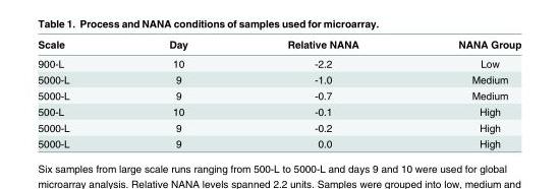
<table><thead><tr><td>Scale</td><td>Day</td><td>Relative NANA</td><td>NANA Group</td></tr></thead><tbody><tr><td>900-L</td><td>10</td><td>-2.2</td><td>Low</td></tr><tr><td>5000-L</td><td>9</td><td>-1.0</td><td>Medium</td></tr><tr><td>5000-L</td><td>9</td><td>-0.7</td><td>Medium</td></tr><tr><td>500-L</td><td>10</td><td>-0.1</td><td>High</td></tr><tr><td>5000-L</td><td>9</td><td>-0.2</td><td>High</td></tr><tr><td>5000-L</td><td>9</td><td>0.0</td><td>High</td></tr></tbody></table>